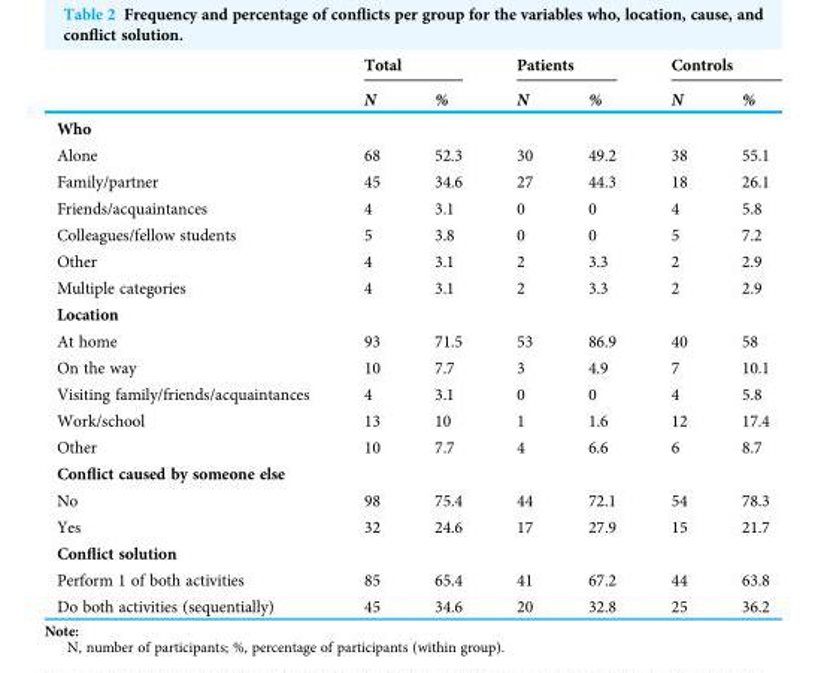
<table><thead><tr><td rowspan="2"></td><td colspan="2">Total</td><td colspan="2">Patients</td><td colspan="2">Controls</td></tr><tr><td>N</td><td>%</td><td>N</td><td>%</td><td>N</td><td>%</td></tr></thead><tbody><tr><td colspan="7">Who</td></tr><tr><td>Alone</td><td>68</td><td>52.3</td><td>30</td><td>49.2</td><td>38</td><td>55.1</td></tr><tr><td>Family/partner</td><td>45</td><td>34.6</td><td>27</td><td>44.3</td><td>18</td><td>26.1</td></tr><tr><td>Friends/acquaintances</td><td>4</td><td>3.1</td><td>0</td><td>0</td><td>4</td><td>5.8</td></tr><tr><td>Colleagues/fellow students</td><td>5</td><td>3.8</td><td>0</td><td>0</td><td>5</td><td>7.2</td></tr><tr><td>Other</td><td>4</td><td>3.1</td><td>2</td><td>3.3</td><td>2</td><td>2.9</td></tr><tr><td>Multiple categories</td><td>4</td><td>3.1</td><td>2</td><td>3.3</td><td>2</td><td>2.9</td></tr><tr><td colspan="7">Location</td></tr><tr><td>At home</td><td>93</td><td>71.5</td><td>53</td><td>86.9</td><td>40</td><td>58</td></tr><tr><td>On the way</td><td>10</td><td>7.7</td><td>3</td><td>4.9</td><td>7</td><td>10.1</td></tr><tr><td>Visiting family/friends/acquaintances</td><td>4</td><td>3.1</td><td>0</td><td>0</td><td>4</td><td>5.8</td></tr><tr><td>Work/school</td><td>13</td><td>10</td><td>1</td><td>1.6</td><td>12</td><td>17.4</td></tr><tr><td>Other</td><td>10</td><td>7.7</td><td>4</td><td>6.6</td><td>6</td><td>8.7</td></tr><tr><td colspan="7">Conflict caused by someone else</td></tr><tr><td>No</td><td>98</td><td>75.4</td><td>44</td><td>72.1</td><td>54</td><td>78.3</td></tr><tr><td>Yes</td><td>32</td><td>24.6</td><td>17</td><td>27.9</td><td>15</td><td>21.7</td></tr><tr><td colspan="7">Conflict solution</td></tr><tr><td>Perform 1 of both activities</td><td>85</td><td>65.4</td><td>41</td><td>67.2</td><td>44</td><td>63.8</td></tr><tr><td>Do both activities (sequentially)</td><td>45</td><td>34.6</td><td>20</td><td>32.8</td><td>25</td><td>36.2</td></tr></tbody></table>